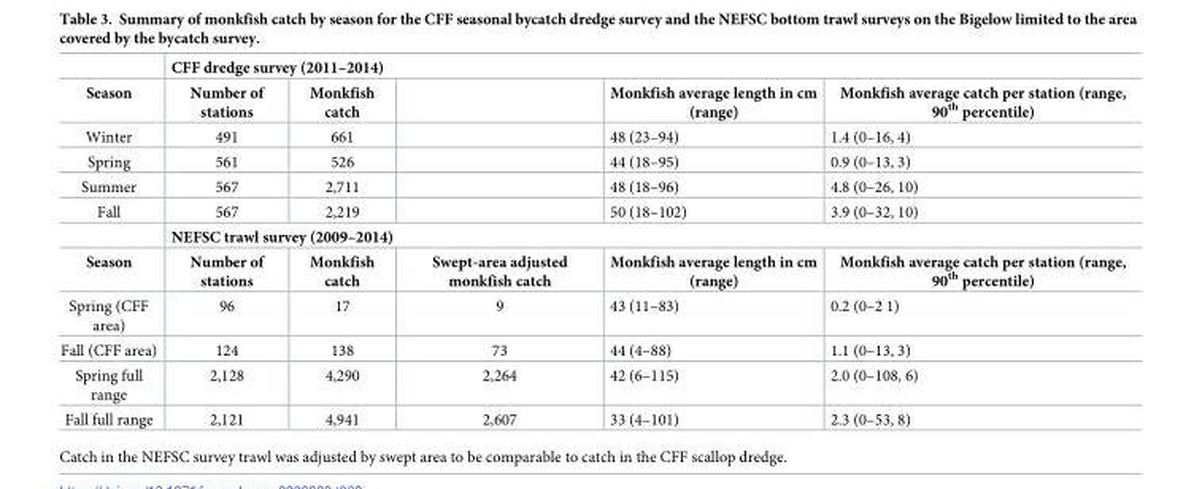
<table><thead><tr><td rowspan="2">Season</td><td colspan="5">CFF dredge survey (2011–2014)</td></tr><tr><td>Number of stations</td><td>Monkfish catch</td><td></td><td>Monkfish average length in cm (range)</td><td>Monkfish average catch per station (range, 90<sup>th</sup> percentile)</td></tr></thead><tbody><tr><td>Winter</td><td>491</td><td>661</td><td></td><td>48 (23–94)</td><td>1.4 (0–16, 4)</td></tr><tr><td>Spring</td><td>561</td><td>526</td><td></td><td>44 (18–95)</td><td>0.9 (0–13, 3)</td></tr><tr><td>Summer</td><td>567</td><td>2,711</td><td></td><td>48 (18–96)</td><td>4.8 (0–26, 10)</td></tr><tr><td rowspan="2">Fall</td><td>567</td><td>2,219</td><td></td><td>50 (18–102)</td><td>3.9 (0–32, 10)</td></tr><tr><td colspan="5">NEFSC trawl survey (2009–2014)</td></tr><tr><td>Season</td><td>Number of stations</td><td>Monkfish catch</td><td>Swept-area adjusted monkfish catch</td><td>Monkfish average length in cm (range)</td><td>Monkfish average catch per station (range, 90<sup>th</sup> percentile)</td></tr><tr><td>Spring (CFF area)</td><td>96</td><td>17</td><td>9</td><td>43 (11–83)</td><td>0.2 (0–2 1)</td></tr><tr><td>Fall (CFF area)</td><td>124</td><td>138</td><td>73</td><td>44 (4–88)</td><td>1.1 (0–13, 3)</td></tr><tr><td>Spring full range</td><td>2,128</td><td>4,290</td><td>2,264</td><td>42 (6–115)</td><td>2.0 (0–108, 6)</td></tr><tr><td>Fall full range</td><td>2,121</td><td>4,941</td><td>2,607</td><td>33 (4–101)</td><td>2.3 (0–53, 8)</td></tr></tbody></table>